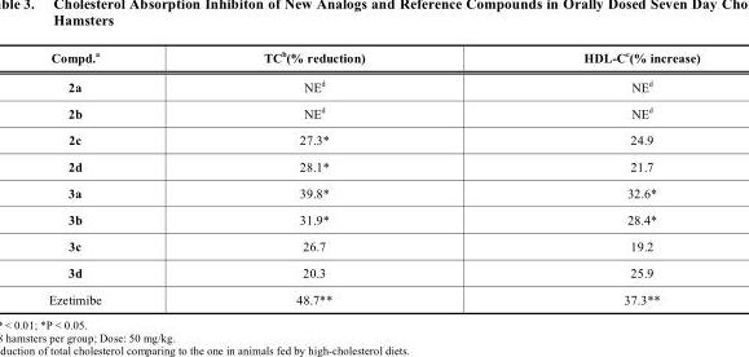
<table><thead><tr><td>Compd.<sup>a</sup></td><td>TC<sup>b</sup>(% reduction)</td><td>HDL-C<sup>c</sup>(% increase)</td></tr></thead><tbody><tr><td>2a</td><td>NE<sup>d</sup></td><td>NE<sup>d</sup></td></tr><tr><td>2b</td><td>NE<sup>d</sup></td><td>NE<sup>d</sup></td></tr><tr><td>2c</td><td>27.3*</td><td>24.9</td></tr><tr><td>2d</td><td>28.1*</td><td>21.7</td></tr><tr><td>3a</td><td>39.8*</td><td>32.6*</td></tr><tr><td>3b</td><td>31.9*</td><td>28.4*</td></tr><tr><td>3c</td><td>26.7</td><td>19.2</td></tr><tr><td>3d</td><td>20.3</td><td>25.9</td></tr><tr><td>Ezetimibe</td><td>48.7**</td><td>37.3**</td></tr></tbody></table>